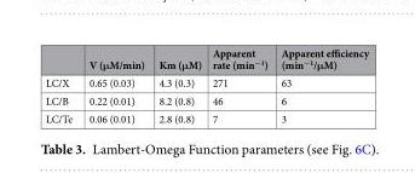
<table><thead><tr><td></td><td>V (μM/min)</td><td>Km (μM)</td><td>Apparent rate (min<sup>−1</sup>)</td><td>Apparent efficiency (min<sup>−1</sup>/μM)</td></tr></thead><tbody><tr><td>LC/X</td><td>0.65 (0.03)</td><td>4.3 (0.3)</td><td>271</td><td>63</td></tr><tr><td>LC/B</td><td>0.22 (0.01)</td><td>8.2 (0.8)</td><td>46</td><td>6</td></tr><tr><td>LC/Te</td><td>0.06 (0.01)</td><td>2.8 (0.8)</td><td>7</td><td>3</td></tr></tbody></table>